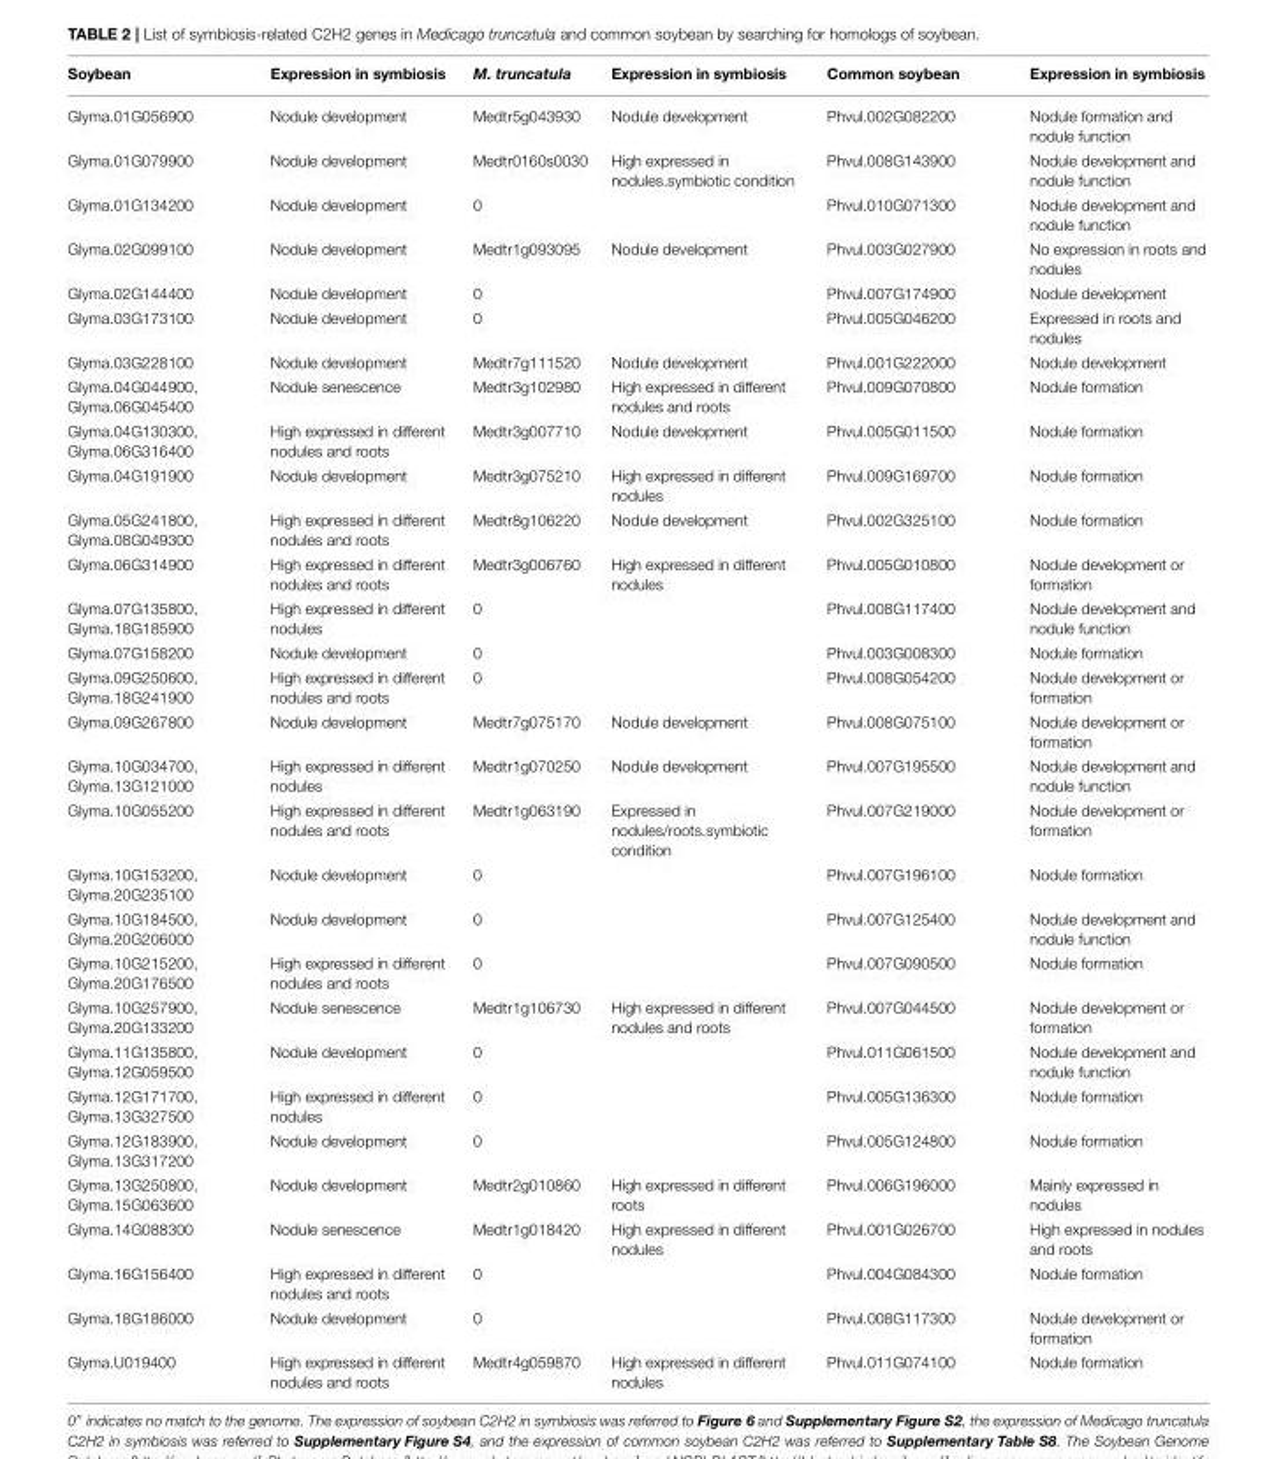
<table><thead><tr><td>Soybean</td><td>Expression in symbiosis</td><td>M. truncatula</td><td>Expression in symbiosis</td><td>Common soybean</td><td>Expression in symbiosis</td></tr></thead><tbody><tr><td>Glyma.01G056900</td><td>Nodule development</td><td>Medtr5g043930</td><td>Nodule development</td><td>Phvul.002G082200</td><td>Nodule formation and nodule function</td></tr><tr><td>Glyma.01G079900</td><td>Nodule development</td><td>Medtr0160s0030</td><td>High expressed in nodules.symbiotic condition</td><td>Phvul.008G143900</td><td>Nodule development and nodule function</td></tr><tr><td>Glyma.01G134200</td><td>Nodule development</td><td>0</td><td></td><td>Phvul.010G071300</td><td>Nodule development and nodule function</td></tr><tr><td>Glyma.02G099100</td><td>Nodule development</td><td>Medtr1g093095</td><td>Nodule development</td><td>Phvul.003G027900</td><td>No expression in roots and nodules</td></tr><tr><td>Glyma.02G144400</td><td>Nodule development</td><td>0</td><td></td><td>Phvul.007G174900</td><td>Nodule development</td></tr><tr><td>Glyma.03G173100</td><td>Nodule development</td><td>0</td><td></td><td>Phvul.005G046200</td><td>Expressed in roots and nodules</td></tr><tr><td>Glyma.03G228100</td><td>Nodule development</td><td>Medtr7g111520</td><td>Nodule development</td><td>Phvul.001G222000</td><td>Nodule development</td></tr><tr><td>Glyma.04G044900, Glyma.06G045400</td><td>Nodule senescence</td><td>Medtr3g102980</td><td>High expressed in different nodules and roots</td><td>Phvul.009G070800</td><td>Nodule formation</td></tr><tr><td>Glyma.04G130300, Glyma.06G316400</td><td>High expressed in different nodules and roots</td><td>Medtr3g007710</td><td>Nodule development</td><td>Phvul.005G011500</td><td>Nodule formation</td></tr><tr><td>Glyma.04G191900</td><td>Nodule development</td><td>Medtr3g075210</td><td>High expressed in different nodules</td><td>Phvul.009G169700</td><td>Nodule formation</td></tr><tr><td>Glyma.05G241800, Glyma.08G049300</td><td>High expressed in different nodules and roots</td><td>Medtr8g106220</td><td>Nodule development</td><td>Phvul.002G325100</td><td>Nodule formation</td></tr><tr><td>Glyma.06G314900</td><td>High expressed in different nodules and roots</td><td>Medtr3g006760</td><td>High expressed in different nodules</td><td>Phvul.005G010800</td><td>Nodule development or formation</td></tr><tr><td>Glyma.07G135800, Glyma.18G185900</td><td>High expressed in different nodules</td><td>0</td><td></td><td>Phvul.008G117400</td><td>Nodule development and nodule function</td></tr><tr><td>Glyma.07G158200</td><td>Nodule development</td><td>0</td><td></td><td>Phvul.003G008300</td><td>Nodule formation</td></tr><tr><td>Glyma.09G250600, Glyma.18G241900</td><td>High expressed in different nodules and roots</td><td>0</td><td></td><td>Phvul.008G054200</td><td>Nodule development or formation</td></tr><tr><td>Glyma.09G267800</td><td>Nodule development</td><td>Medtr7g075170</td><td>Nodule development</td><td>Phvul.008G075100</td><td>Nodule development or formation</td></tr><tr><td>Glyma.10G034700, Glyma.13G121000</td><td>High expressed in different nodules</td><td>Medtr1g070250</td><td>Nodule development</td><td>Phvul.007G195500</td><td>Nodule development and nodule function</td></tr><tr><td>Glyma.10G055200</td><td>High expressed in different nodules and roots</td><td>Medtr1g063190</td><td>Expressed in nodules/roots.symbiotic condition</td><td>Phvul.007G219000</td><td>Nodule development or formation</td></tr><tr><td>Glyma.10G153200, Glyma.20G235100</td><td>Nodule development</td><td>0</td><td></td><td>Phvul.007G196100</td><td>Nodule formation</td></tr><tr><td>Glyma.10G184500, Glyma.20G206000</td><td>Nodule development</td><td>0</td><td></td><td>Phvul.007G125400</td><td>Nodule development and nodule function</td></tr><tr><td>Glyma.10G215200, Glyma.20G176500</td><td>High expressed in different nodules and roots</td><td>0</td><td></td><td>Phvul.007G090500</td><td>Nodule formation</td></tr><tr><td>Glyma.10G257900, Glyma.20G133200</td><td>Nodule senescence</td><td>Medtr1g106730</td><td>High expressed in different nodules and roots</td><td>Phvul.007G044500</td><td>Nodule development or formation</td></tr><tr><td>Glyma.11G135800, Glyma.12G059500</td><td>Nodule development</td><td>0</td><td></td><td>Phvul.011G061500</td><td>Nodule development and nodule function</td></tr><tr><td>Glyma.12G171700, Glyma.13G327500</td><td>High expressed in different nodules</td><td>0</td><td></td><td>Phvul.005G136300</td><td>Nodule formation</td></tr><tr><td>Glyma.12G183900, Glyma.13G317200</td><td>Nodule development</td><td>0</td><td></td><td>Phvul.005G124800</td><td>Nodule formation</td></tr><tr><td>Glyma.13G250800, Glyma.15G063600</td><td>Nodule development</td><td>Medtr2g010860</td><td>High expressed in different roots</td><td>Phvul.006G196000</td><td>Mainly expressed in nodules</td></tr><tr><td>Glyma.14G088300</td><td>Nodule senescence</td><td>Medtr1g018420</td><td>High expressed in different nodules</td><td>Phvul.001G026700</td><td>High expressed in nodules and roots</td></tr><tr><td>Glyma.16G156400</td><td>High expressed in different nodules and roots</td><td>0</td><td></td><td>Phvul.004G084300</td><td>Nodule formation</td></tr><tr><td>Glyma.18G186000</td><td>Nodule development</td><td>0</td><td></td><td>Phvul.008G117300</td><td>Nodule development or formation</td></tr><tr><td>Glyma.U019400</td><td>High expressed in different nodules and roots</td><td>Medtr4g059870</td><td>High expressed in different nodules</td><td>Phvul.011G074100</td><td>Nodule formation</td></tr></tbody></table>